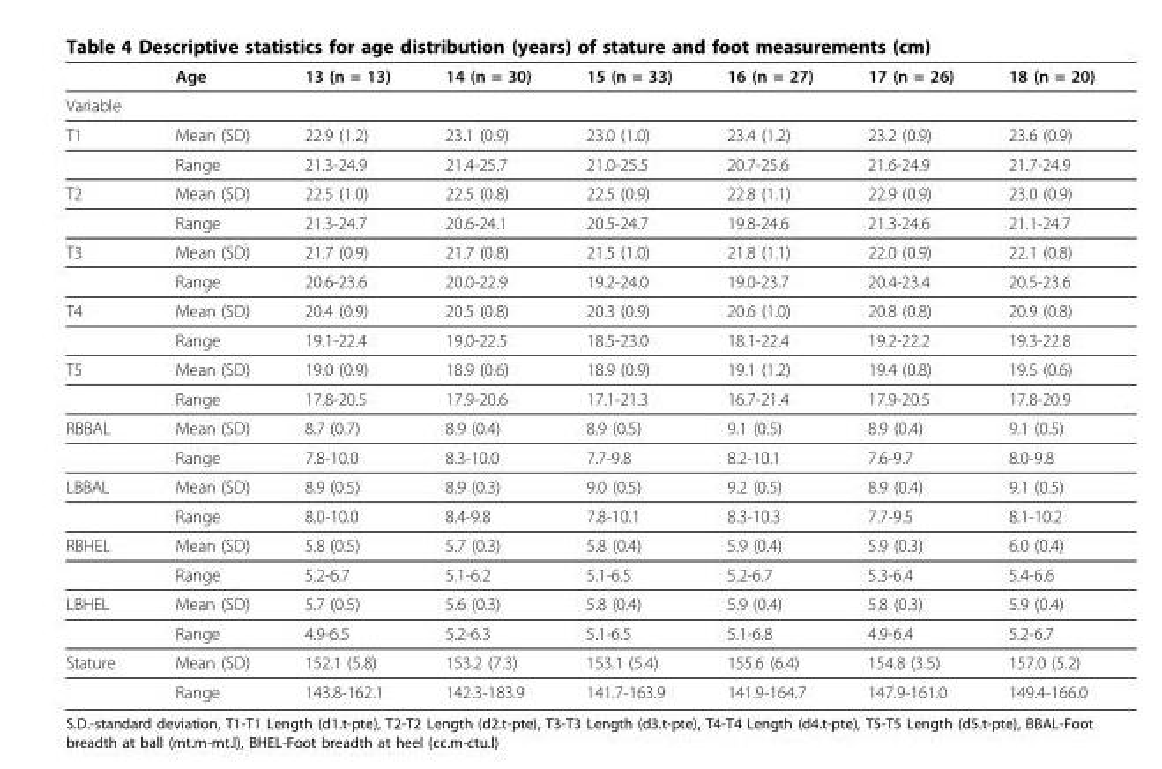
<table><thead><tr><td></td><td>Age</td><td>13 (n = 13)</td><td>14 (n = 30)</td><td>15 (n = 33)</td><td>16 (n = 27)</td><td>17 (n = 26)</td><td>18 (n = 20)</td></tr></thead><tbody><tr><td colspan="8">Variable</td></tr><tr><td rowspan="2">T1</td><td>Mean (SD)</td><td>22.9 (1.2)</td><td>23.1 (0.9)</td><td>23.0 (1.0)</td><td>23.4 (1.2)</td><td>23.2 (0.9)</td><td>23.6 (0.9)</td></tr><tr><td>Range</td><td>21.3-24.9</td><td>21.4-25.7</td><td>21.0-25.5</td><td>20.7-25.6</td><td>21.6-24.9</td><td>21.7-24.9</td></tr><tr><td rowspan="2">T2</td><td>Mean (SD)</td><td>22.5 (1.0)</td><td>22.5 (0.8)</td><td>22.5 (0.9)</td><td>22.8 (1.1)</td><td>22.9 (0.9)</td><td>23.0 (0.9)</td></tr><tr><td>Range</td><td>21.3-24.7</td><td>20.6-24.1</td><td>20.5-24.7</td><td>19.8-24.6</td><td>21.3-24.6</td><td>21.1-24.7</td></tr><tr><td rowspan="2">T3</td><td>Mean (SD)</td><td>21.7 (0.9)</td><td>21.7 (0.8)</td><td>21.5 (1.0)</td><td>21.8 (1.1)</td><td>22.0 (0.9)</td><td>22.1 (0.8)</td></tr><tr><td>Range</td><td>20.6-23.6</td><td>20.0-22.9</td><td>19.2-24.0</td><td>19.0-23.7</td><td>20.4-23.4</td><td>20.5-23.6</td></tr><tr><td rowspan="2">T4</td><td>Mean (SD)</td><td>20.4 (0.9)</td><td>20.5 (0.8)</td><td>20.3 (0.9)</td><td>20.6 (1.0)</td><td>20.8 (0.8)</td><td>20.9 (0.8)</td></tr><tr><td>Range</td><td>19.1-22.4</td><td>19.0-22.5</td><td>18.5-23.0</td><td>18.1-22.4</td><td>19.2-22.2</td><td>19.3-22.8</td></tr><tr><td rowspan="2">T5</td><td>Mean (SD)</td><td>19.0 (0.9)</td><td>18.9 (0.6)</td><td>18.9 (0.9)</td><td>19.1 (1.2)</td><td>19.4 (0.8)</td><td>19.5 (0.6)</td></tr><tr><td>Range</td><td>17.8-20.5</td><td>17.9-20.6</td><td>17.1-21.3</td><td>16.7-21.4</td><td>17.9-20.5</td><td>17.8-20.9</td></tr><tr><td rowspan="2">RBBAL</td><td>Mean (SD)</td><td>8.7 (0.7)</td><td>8.9 (0.4)</td><td>8.9 (0.5)</td><td>9.1 (0.5)</td><td>8.9 (0.4)</td><td>9.1 (0.5)</td></tr><tr><td>Range</td><td>7.8-10.0</td><td>8.3-10.0</td><td>7.7-9.8</td><td>8.2-10.1</td><td>7.6-9.7</td><td>8.0-9.8</td></tr><tr><td rowspan="2">LBBAL</td><td>Mean (SD)</td><td>8.9 (0.5)</td><td>8.9 (0.3)</td><td>9.0 (0.5)</td><td>9.2 (0.5)</td><td>8.9 (0.4)</td><td>9.1 (0.5)</td></tr><tr><td>Range</td><td>8.0-10.0</td><td>8.4-9.8</td><td>7.8-10.1</td><td>8.3-10.3</td><td>7.7-9.5</td><td>8.1-10.2</td></tr><tr><td rowspan="2">RBHEL</td><td>Mean (SD)</td><td>5.8 (0.5)</td><td>5.7 (0.3)</td><td>5.8 (0.4)</td><td>5.9 (0.4)</td><td>5.9 (0.3)</td><td>6.0 (0.4)</td></tr><tr><td>Range</td><td>5.2-6.7</td><td>5.1-6.2</td><td>5.1-6.5</td><td>5.2-6.7</td><td>5.3-6.4</td><td>5.4-6.6</td></tr><tr><td rowspan="2">LBHEL</td><td>Mean (SD)</td><td>5.7 (0.5)</td><td>5.6 (0.3)</td><td>5.8 (0.4)</td><td>5.9 (0.4)</td><td>5.8 (0.3)</td><td>5.9 (0.4)</td></tr><tr><td>Range</td><td>4.9-6.5</td><td>5.2-6.3</td><td>5.1-6.5</td><td>5.1-6.8</td><td>4.9-6.4</td><td>5.2-6.7</td></tr><tr><td rowspan="2">Stature</td><td>Mean (SD)</td><td>152.1 (5.8)</td><td>153.2 (7.3)</td><td>153.1 (5.4)</td><td>155.6 (6.4)</td><td>154.8 (3.5)</td><td>157.0 (5.2)</td></tr><tr><td>Range</td><td>143.8-162.1</td><td>142.3-183.9</td><td>141.7-163.9</td><td>141.9-164.7</td><td>147.9-161.0</td><td>149.4-166.0</td></tr></tbody></table>